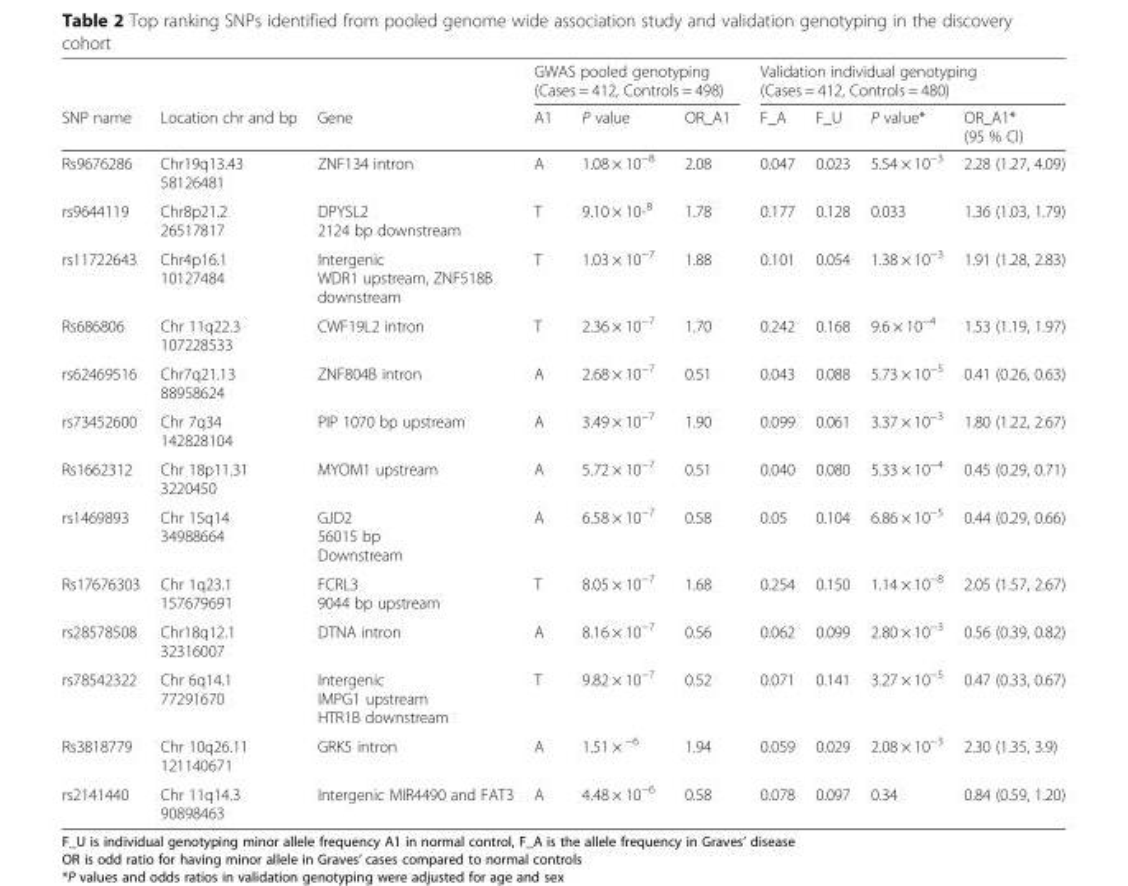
<table><thead><tr><td rowspan="2">SNP name</td><td rowspan="2">Location chr and bp</td><td rowspan="2">Gene</td><td colspan="3">GWAS pooled genotyping (Cases = 412, Controls = 498)</td><td colspan="4">Validation individual genotyping (Cases = 412, Controls = 480)</td></tr><tr><td>A1</td><td>P value</td><td>OR_A1</td><td>F_A</td><td>F_U</td><td>P value*</td><td>OR_A1* (95 % CI)</td></tr></thead><tbody><tr><td>Rs9676286</td><td>Chr19q13.43 58126481</td><td>ZNF134 intron</td><td>A</td><td>1.08 × 10<sup>−8</sup></td><td>2.08</td><td>0.047</td><td>0.023</td><td>5.54 × 10<sup>−3</sup></td><td>2.28 (1.27, 4.09)</td></tr><tr><td>rs9644119</td><td>Chr8p21.2 26517817</td><td>DPYSL2 2124 bp downstream</td><td>T</td><td>9.10 × 10-<sup>8</sup></td><td>1.78</td><td>0.177</td><td>0.128</td><td>0.033</td><td>1.36 (1.03, 1.79)</td></tr><tr><td>rs11722643</td><td>Chr4p16.1 10127484</td><td>Intergenic WDR1 upstream, ZNF518B downstream</td><td>T</td><td>1.03 × 10<sup>−7</sup></td><td>1.88</td><td>0.101</td><td>0.054</td><td>1.38 × 10<sup>−3</sup></td><td>1.91 (1.28, 2.83)</td></tr><tr><td>Rs686806</td><td>Chr 11q22.3 107228533</td><td>CWF19L2 intron</td><td>T</td><td>2.36 × 10<sup>−7</sup></td><td>1.70</td><td>0.242</td><td>0.168</td><td>9.6 × 10<sup>−4</sup></td><td>1.53 (1.19, 1.97)</td></tr><tr><td>rs62469516</td><td>Chr7q21.13 88958624</td><td>ZNF804B intron</td><td>A</td><td>2.68 × 10<sup>−7</sup></td><td>0.51</td><td>0.043</td><td>0.088</td><td>5.73 × 10<sup>−5</sup></td><td>0.41 (0.26, 0.63)</td></tr><tr><td>rs73452600</td><td>Chr 7q34 142828104</td><td>PIP 1070 bp upstream</td><td>A</td><td>3.49 × 10<sup>−7</sup></td><td>1.90</td><td>0.099</td><td>0.061</td><td>3.37 × 10<sup>−3</sup></td><td>1.80 (1.22, 2.67)</td></tr><tr><td>Rs1662312</td><td>Chr 18p11.31 3220450</td><td>MYOM1 upstream</td><td>A</td><td>5.72 × 10<sup>−7</sup></td><td>0.51</td><td>0.040</td><td>0.080</td><td>5.33 × 10<sup>−4</sup></td><td>0.45 (0.29, 0.71)</td></tr><tr><td>rs1469893</td><td>Chr 15q14 34988664</td><td>GJD2 56015 bp Downstream</td><td>A</td><td>6.58 × 10<sup>−7</sup></td><td>0.58</td><td>0.05</td><td>0.104</td><td>6.86 × 10<sup>−5</sup></td><td>0.44 (0.29, 0.66)</td></tr><tr><td>Rs17676303</td><td>Chr 1q23.1 157679691</td><td>FCRL3 9044 bp upstream</td><td>T</td><td>8.05 × 10<sup>−7</sup></td><td>1.68</td><td>0.254</td><td>0.150</td><td>1.14 × 10<sup>−8</sup></td><td>2.05 (1.57, 2.67)</td></tr><tr><td>rs28578508</td><td>Chr18q12.1 32316007</td><td>DTNA intron</td><td>A</td><td>8.16 × 10<sup>−7</sup></td><td>0.56</td><td>0.062</td><td>0.099</td><td>2.80 × 10<sup>−3</sup></td><td>0.56 (0.39, 0.82)</td></tr><tr><td>rs78542322</td><td>Chr 6q14.1 77291670</td><td>Intergenic IMPG1 upstream HTR1B downstream</td><td>T</td><td>9.82 × 10<sup>−7</sup></td><td>0.52</td><td>0.071</td><td>0.141</td><td>3.27 × 10<sup>−5</sup></td><td>0.47 (0.33, 0.67)</td></tr><tr><td>Rs3818779</td><td>Chr 10q26.11 121140671</td><td>GRK5 intron</td><td>A</td><td>1.51 × <sup>−6</sup></td><td>1.94</td><td>0.059</td><td>0.029</td><td>2.08 × 10<sup>−3</sup></td><td>2.30 (1.35, 3.9)</td></tr><tr><td>rs2141440</td><td>Chr 11q14.3 90898463</td><td>Intergenic MIR4490 and FAT3</td><td>A</td><td>4.48 × 10<sup>−6</sup></td><td>0.58</td><td>0.078</td><td>0.097</td><td>0.34</td><td>0.84 (0.59, 1.20)</td></tr></tbody></table>